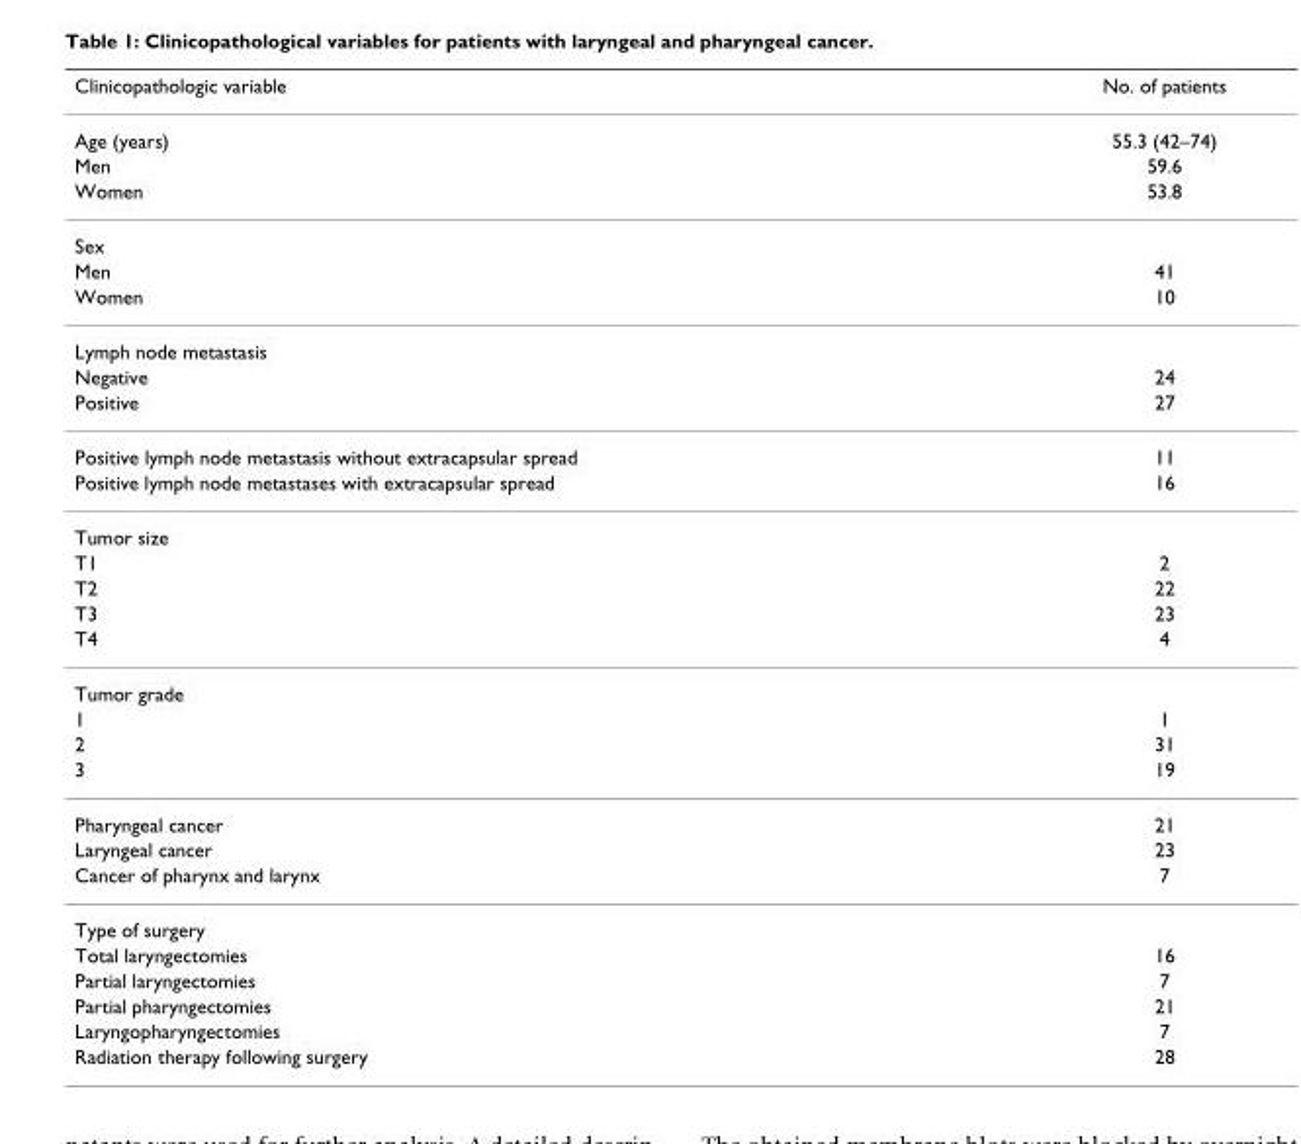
<table><thead><tr><td>Clinicopathologic variable</td><td>No. of patients</td></tr></thead><tbody><tr><td>Age (years)</td><td>55.3 (42–74)</td></tr><tr><td>Men</td><td>59.6</td></tr><tr><td>Women</td><td>53.8</td></tr><tr><td colspan="2">Sex</td></tr><tr><td>Men</td><td>41</td></tr><tr><td>Women</td><td>10</td></tr><tr><td colspan="2">Lymph node metastasis</td></tr><tr><td>Negative</td><td>24</td></tr><tr><td>Positive</td><td>27</td></tr><tr><td>Positive lymph node metastasis without extracapsular spread</td><td>11</td></tr><tr><td>Positive lymph node metastases with extracapsular spread</td><td>16</td></tr><tr><td colspan="2">Tumor size</td></tr><tr><td>T1</td><td>2</td></tr><tr><td>T2</td><td>22</td></tr><tr><td>T3</td><td>23</td></tr><tr><td>T4</td><td>4</td></tr><tr><td colspan="2">Tumor grade</td></tr><tr><td>1</td><td>1</td></tr><tr><td>2</td><td>31</td></tr><tr><td>3</td><td>19</td></tr><tr><td>Pharyngeal cancer</td><td>21</td></tr><tr><td>Laryngeal cancer</td><td>23</td></tr><tr><td>Cancer of pharynx and larynx</td><td>7</td></tr><tr><td colspan="2">Type of surgery</td></tr><tr><td>Total laryngectomies</td><td>16</td></tr><tr><td>Partial laryngectomies</td><td>7</td></tr><tr><td>Partial pharyngectomies</td><td>21</td></tr><tr><td>Laryngopharyngectomies</td><td>7</td></tr><tr><td>Radiation therapy following surgery</td><td>28</td></tr></tbody></table>